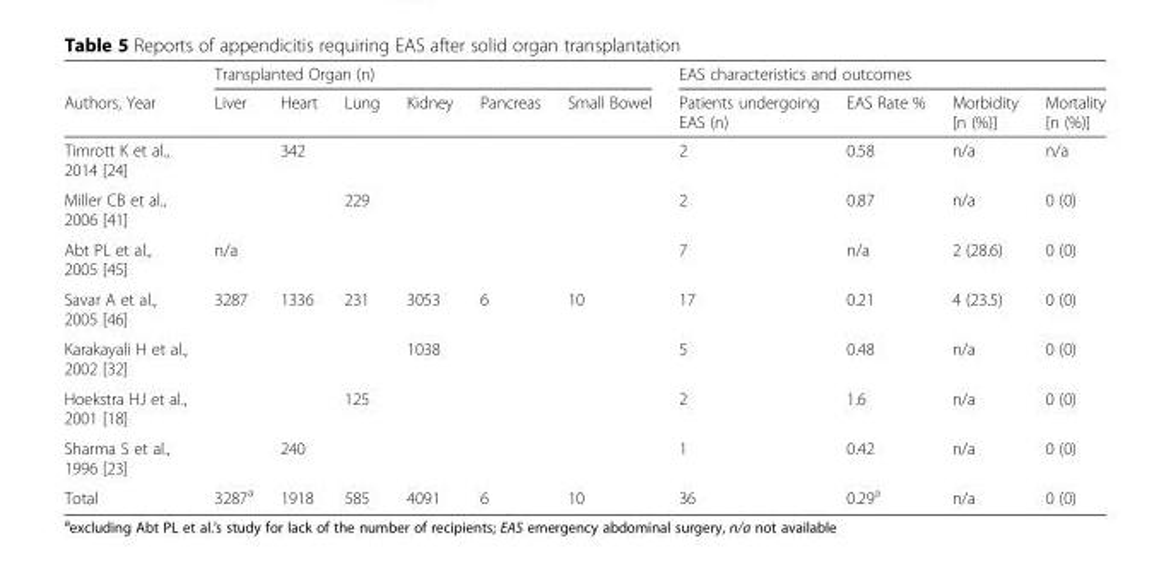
<table><thead><tr><td rowspan="2">Authors, Year</td><td colspan="6">Transplanted Organ (n)</td><td colspan="4">EAS characteristics and outcomes</td></tr><tr><td>Liver</td><td>Heart</td><td>Lung</td><td>Kidney</td><td>Pancreas</td><td>Small Bowel</td><td>Patients undergoing EAS (n)</td><td>EAS Rate %</td><td>Morbidity [n (%)]</td><td>Mortality [n (%)]</td></tr></thead><tbody><tr><td>Timrott K et al., 2014 [24]</td><td></td><td>342</td><td></td><td></td><td></td><td></td><td>2</td><td>0.58</td><td>n/a</td><td>n/a</td></tr><tr><td>Miller CB et al., 2006 [41]</td><td></td><td></td><td>229</td><td></td><td></td><td></td><td>2</td><td>0.87</td><td>n/a</td><td>0 (0)</td></tr><tr><td>Abt PL et al., 2005 [45]</td><td>n/a</td><td></td><td></td><td></td><td></td><td></td><td>7</td><td>n/a</td><td>2 (28.6)</td><td>0 (0)</td></tr><tr><td>Savar A et al., 2005 [46]</td><td>3287</td><td>1336</td><td>231</td><td>3053</td><td>6</td><td>10</td><td>17</td><td>0.21</td><td>4 (23.5)</td><td>0 (0)</td></tr><tr><td>Karakayali H et al., 2002 [32]</td><td></td><td></td><td></td><td>1038</td><td></td><td></td><td>5</td><td>0.48</td><td>n/a</td><td>0 (0)</td></tr><tr><td>Hoekstra HJ et al., 2001 [18]</td><td></td><td></td><td>125</td><td></td><td></td><td></td><td>2</td><td>1.6</td><td>n/a</td><td>0 (0)</td></tr><tr><td>Sharma S et al., 1996 [23]</td><td></td><td>240</td><td></td><td></td><td></td><td></td><td>1</td><td>0.42</td><td>n/a</td><td>0 (0)</td></tr><tr><td>Total</td><td>3287<sup>a</sup></td><td>1918</td><td>585</td><td>4091</td><td>6</td><td>10</td><td>36</td><td>0.29<sup>a</sup></td><td>n/a</td><td>0 (0)</td></tr></tbody></table>